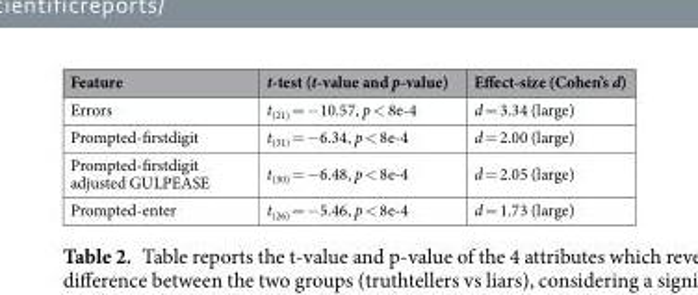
<table><thead><tr><td>Feature</td><td>t-test (t-value and p-value)</td><td>Effect-size (Cohen’s d)</td></tr></thead><tbody><tr><td>Errors</td><td>t<sub>(21)</sub> = −10.57, p &lt; 8e-4</td><td>d = 3.34 (large)</td></tr><tr><td>Prompted-firstdigit</td><td>t<sub>(31)</sub> = −6.34, p &lt; 8e-4</td><td>d = 2.00 (large)</td></tr><tr><td>Prompted-firstdigit adjusted GULPEASE</td><td>t<sub>(30)</sub> = −6.48, p &lt; 8e-4</td><td>d = 2.05 (large)</td></tr><tr><td>Prompted-enter</td><td>t<sub>(26)</sub> = −5.46, p &lt; 8e-4</td><td>d = 1.73 (large)</td></tr></tbody></table>